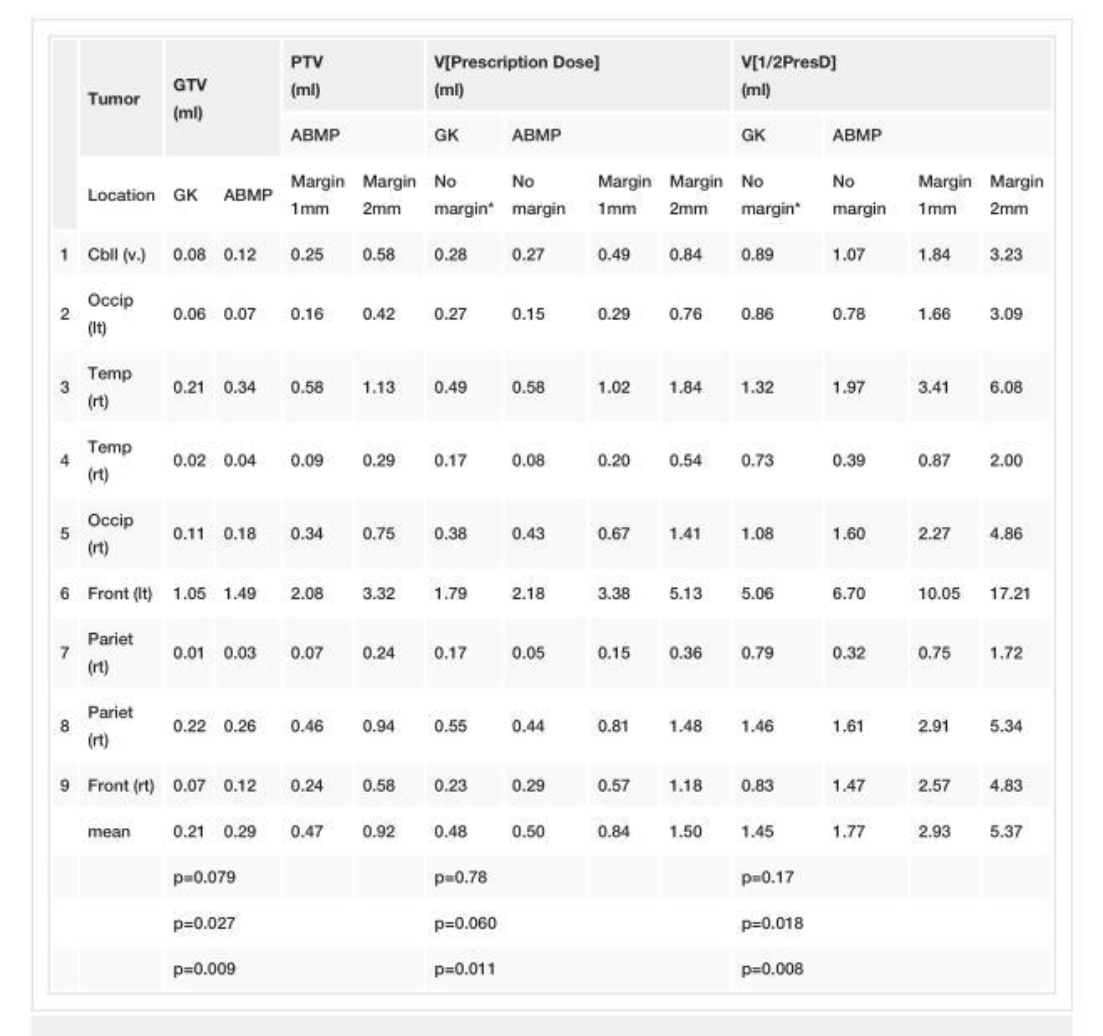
<table><thead><tr><td rowspan="3"></td><td rowspan="3">Tumor Location</td><td rowspan="2" colspan="2">GTV (ml)</td><td rowspan="2" colspan="2">PTV (ml) ABMP</td><td colspan="4">V[Prescription Dose] (ml)</td><td colspan="4">V[1/2PresD] (ml)</td></tr><tr><td rowspan="2">GK No margin*</td><td colspan="3">ABMP</td><td rowspan="2">GK No margin*</td><td colspan="3">ABMP</td></tr><tr><td>GK</td><td>ABMP</td><td>Margin 1mm</td><td>Margin 2mm</td><td>No margin</td><td>Margin 1mm</td><td>Margin 2mm</td><td>No margin</td><td>Margin 1mm</td><td>Margin 2mm</td></tr></thead><tbody><tr><td>1</td><td>Cbll (v.)</td><td>0.08</td><td>0.12</td><td>0.25</td><td>0.58</td><td>0.28</td><td>0.27</td><td>0.49</td><td>0.84</td><td>0.89</td><td>1.07</td><td>1.84</td><td>3.23</td></tr><tr><td>2</td><td>Occip (lt)</td><td>0.06</td><td>0.07</td><td>0.16</td><td>0.42</td><td>0.27</td><td>0.15</td><td>0.29</td><td>0.76</td><td>0.86</td><td>0.78</td><td>1.66</td><td>3.09</td></tr><tr><td>3</td><td>Temp (rt)</td><td>0.21</td><td>0.34</td><td>0.58</td><td>1.13</td><td>0.49</td><td>0.58</td><td>1.02</td><td>1.84</td><td>1.32</td><td>1.97</td><td>3.41</td><td>6.08</td></tr><tr><td>4</td><td>Temp (rt)</td><td>0.02</td><td>0.04</td><td>0.09</td><td>0.29</td><td>0.17</td><td>0.08</td><td>0.20</td><td>0.54</td><td>0.73</td><td>0.39</td><td>0.87</td><td>2.00</td></tr><tr><td>5</td><td>Occip (rt)</td><td>0.11</td><td>0.18</td><td>0.34</td><td>0.75</td><td>0.38</td><td>0.43</td><td>0.67</td><td>1.41</td><td>1.08</td><td>1.60</td><td>2.27</td><td>4.86</td></tr><tr><td>6</td><td>Front (lt)</td><td>1.05</td><td>1.49</td><td>2.08</td><td>3.32</td><td>1.79</td><td>2.18</td><td>3.38</td><td>5.13</td><td>5.06</td><td>6.70</td><td>10.05</td><td>17.21</td></tr><tr><td>7</td><td>Pariet (rt)</td><td>0.01</td><td>0.03</td><td>0.07</td><td>0.24</td><td>0.17</td><td>0.05</td><td>0.15</td><td>0.36</td><td>0.79</td><td>0.32</td><td>0.75</td><td>1.72</td></tr><tr><td>8</td><td>Pariet (rt)</td><td>0.22</td><td>0.26</td><td>0.46</td><td>0.94</td><td>0.55</td><td>0.44</td><td>0.81</td><td>1.48</td><td>1.46</td><td>1.61</td><td>2.91</td><td>5.34</td></tr><tr><td rowspan="5">9</td><td>Front (rt)</td><td>0.07</td><td>0.12</td><td>0.24</td><td>0.58</td><td>0.23</td><td>0.29</td><td>0.57</td><td>1.18</td><td>0.83</td><td>1.47</td><td>2.57</td><td>4.83</td></tr><tr><td>mean</td><td>0.21</td><td>0.29</td><td>0.47</td><td>0.92</td><td>0.48</td><td>0.50</td><td>0.84</td><td>1.50</td><td>1.45</td><td>1.77</td><td>2.93</td><td>5.37</td></tr><tr><td></td><td colspan="2">p=0.079</td><td></td><td></td><td colspan="2">p=0.78</td><td></td><td></td><td colspan="2">p=0.17</td><td></td><td></td></tr><tr><td></td><td colspan="3">p=0.027</td><td></td><td colspan="3">p=0.060</td><td></td><td colspan="3">p=0.018</td><td></td></tr><tr><td></td><td colspan="4">p=0.009</td><td colspan="4">p=0.011</td><td colspan="4">p=0.008</td></tr></tbody></table>